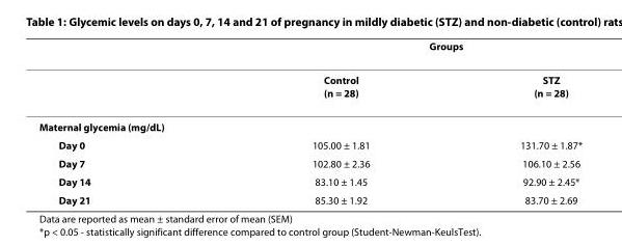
<table><thead><tr><td rowspan="2"></td><td colspan="2">Groups</td></tr><tr><td>Control (n = 28)</td><td>STZ (n = 28)</td></tr></thead><tbody><tr><td colspan="3">Maternal glycemia (mg/dL)</td></tr><tr><td>Day 0</td><td>105.00 ± 1.81</td><td>131.70 ± 1.87*</td></tr><tr><td>Day 7</td><td>102.80 ± 2.36</td><td>106.10 ± 2.56</td></tr><tr><td>Day 14</td><td>83.10 ± 1.45</td><td>92.90 ± 2.45*</td></tr><tr><td>Day 21</td><td>85.30 ± 1.92</td><td>83.70 ± 2.69</td></tr></tbody></table>